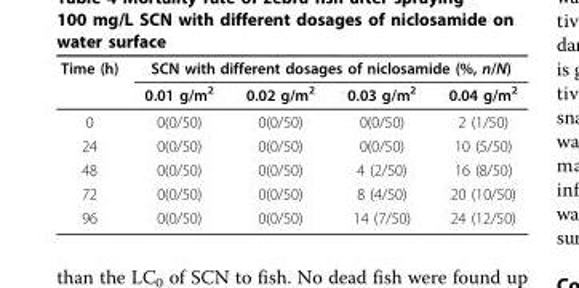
<table><thead><tr><td rowspan="2">Time (h)</td><td colspan="4">SCN with different dosages of niclosamide (%, n/N)</td></tr><tr><td>0.01 g/m<sup>2</sup></td><td>0.02 g/m<sup>2</sup></td><td>0.03 g/m<sup>2</sup></td><td>0.04 g/m<sup>2</sup></td></tr></thead><tbody><tr><td>0</td><td>0(0/50)</td><td>0(0/50)</td><td>0(0/50)</td><td>2 (1/50)</td></tr><tr><td>24</td><td>0(0/50)</td><td>0(0/50)</td><td>0(0/50)</td><td>10 (5/50)</td></tr><tr><td>48</td><td>0(0/50)</td><td>0(0/50)</td><td>4 (2/50)</td><td>16 (8/50)</td></tr><tr><td>72</td><td>0(0/50)</td><td>0(0/50)</td><td>8 (4/50)</td><td>20 (10/50)</td></tr><tr><td>96</td><td>0(0/50)</td><td>0(0/50)</td><td>14 (7/50)</td><td>24 (12/50)</td></tr></tbody></table>